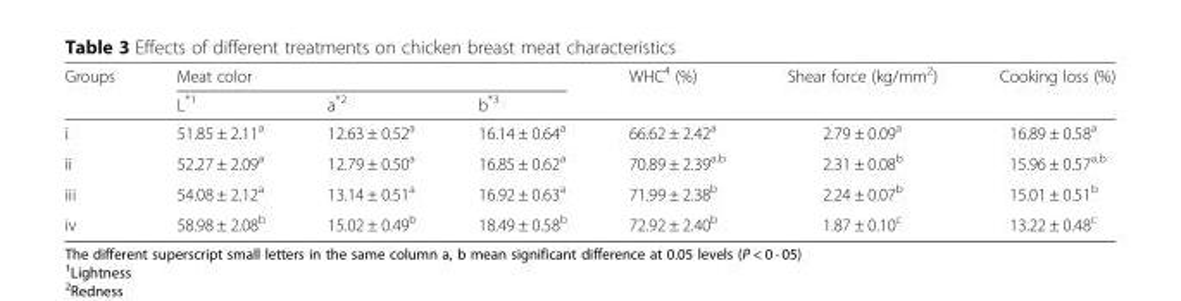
<table><thead><tr><td rowspan="2">Groups</td><td colspan="3">Meat color</td><td rowspan="2">WHC<sup>4</sup> (%)</td><td rowspan="2">Shear force (kg/mm<sup>2</sup>)</td><td rowspan="2">Cooking loss (%)</td></tr><tr><td>L<sup>*1</sup></td><td>a<sup>*2</sup></td><td>b<sup>*3</sup></td></tr></thead><tbody><tr><td>i</td><td>51.85 ± 2.11<sup>a</sup></td><td>12.63 ± 0.52<sup>a</sup></td><td>16.14 ± 0.64<sup>a</sup></td><td>66.62 ± 2.42<sup>a</sup></td><td>2.79 ± 0.09<sup>a</sup></td><td>16.89 ± 0.58<sup>a</sup></td></tr><tr><td>ii</td><td>52.27 ± 2.09<sup>a</sup></td><td>12.79 ± 0.50<sup>a</sup></td><td>16.85 ± 0.62<sup>a</sup></td><td>70.89 ± 2.39<sup>a,b</sup></td><td>2.31 ± 0.08<sup>b</sup></td><td>15.96 ± 0.57<sup>a,b</sup></td></tr><tr><td>iii</td><td>54.08 ± 2.12<sup>a</sup></td><td>13.14 ± 0.51<sup>a</sup></td><td>16.92 ± 0.63<sup>a</sup></td><td>71.99 ± 2.38<sup>b</sup></td><td>2.24 ± 0.07<sup>b</sup></td><td>15.01 ± 0.51<sup>b</sup></td></tr><tr><td>iv</td><td>58.98 ± 2.08<sup>b</sup></td><td>15.02 ± 0.49<sup>b</sup></td><td>18.49 ± 0.58<sup>b</sup></td><td>72.92 ± 2.40<sup>b</sup></td><td>1.87 ± 0.10<sup>c</sup></td><td>13.22 ± 0.48<sup>c</sup></td></tr></tbody></table>